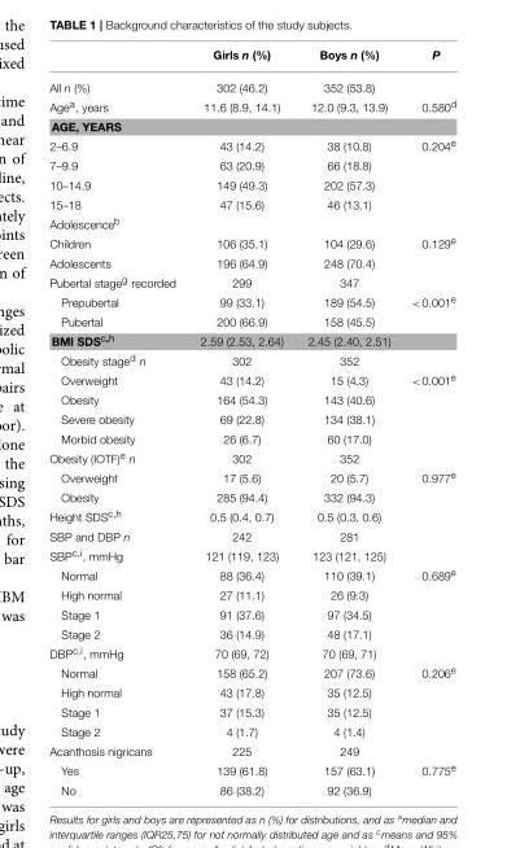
<table><thead><tr><td></td><td>Girls n (%)</td><td>Boys n (%)</td><td>P</td></tr></thead><tbody><tr><td>All n (%)</td><td>302 (46.2)</td><td>352 (53.8)</td><td></td></tr><tr><td>Age<sup>a</sup>, years</td><td>11.6 (8.9, 14.1)</td><td>12.0 (9.3, 13.9)</td><td>0.580<sup>d</sup></td></tr><tr><td colspan="4">AGE, YEARS</td></tr><tr><td>2–6.9</td><td>43 (14.2)</td><td>38 (10.8)</td><td>0.204<sup>e</sup></td></tr><tr><td>7–9.9</td><td>63 (20.9)</td><td>66 (18.8)</td><td></td></tr><tr><td>10–14.9</td><td>149 (49.3)</td><td>202 (57.3)</td><td></td></tr><tr><td>15–18</td><td>47 (15.6)</td><td>46 (13.1)</td><td></td></tr><tr><td colspan="4">Adolescence<sup>b</sup></td></tr><tr><td>Children</td><td>106 (35.1)</td><td>104 (29.6)</td><td>0.129<sup>e</sup></td></tr><tr><td>Adolescents</td><td>196 (64.9)</td><td>248 (70.4)</td><td></td></tr><tr><td>Pubertal stage<sup>g</sup> recorded</td><td>299</td><td>347</td><td></td></tr><tr><td>Prepubertal</td><td>99 (33.1)</td><td>189 (54.5)</td><td>&lt;0.001<sup>e</sup></td></tr><tr><td>Pubertal</td><td>200 (66.9)</td><td>158 (45.5)</td><td></td></tr><tr><td>BMI SDS<sup>c,h</sup></td><td>2.59 (2.53, 2.64)</td><td>2.45 (2.40, 2.51)</td><td></td></tr><tr><td>Obesity stage<sup>d</sup> n</td><td>302</td><td>352</td><td></td></tr><tr><td>Overweight</td><td>43 (14.2)</td><td>15 (4.3)</td><td>&lt;0.001<sup>e</sup></td></tr><tr><td>Obesity</td><td>164 (54.3)</td><td>143 (40.6)</td><td></td></tr><tr><td>Severe obesity</td><td>69 (22.8)</td><td>134 (38.1)</td><td></td></tr><tr><td>Morbid obesity</td><td>26 (6.7)</td><td>60 (17.0)</td><td></td></tr><tr><td>Obesity (IOTF)<sup>e</sup> n</td><td>302</td><td>352</td><td></td></tr><tr><td>Overweight</td><td>17 (5.6)</td><td>20 (5.7)</td><td>0.977<sup>e</sup></td></tr><tr><td>Obesity</td><td>285 (94.4)</td><td>332 (94.3)</td><td></td></tr><tr><td>Height SDS<sup>c,h</sup></td><td>0.5 (0.4, 0.7)</td><td>0.5 (0.3, 0.6)</td><td></td></tr><tr><td>SBP and DBP n</td><td>242</td><td>281</td><td></td></tr><tr><td>SBP<sup>c,i</sup>, mmHg</td><td>121 (119, 123)</td><td>123 (121, 125)</td><td></td></tr><tr><td>Normal</td><td>88 (36.4)</td><td>110 (39.1)</td><td>0.689<sup>e</sup></td></tr><tr><td>High normal</td><td>27 (11.1)</td><td>26 (9.3)</td><td></td></tr><tr><td>Stage 1</td><td>91 (37.6)</td><td>97 (34.5)</td><td></td></tr><tr><td>Stage 2</td><td>36 (14.9)</td><td>48 (17.1)</td><td></td></tr><tr><td>DBP<sup>c,i</sup>, mmHg</td><td>70 (69, 72)</td><td>70 (69, 71)</td><td></td></tr><tr><td>Normal</td><td>158 (65.2)</td><td>207 (73.6)</td><td>0.206<sup>e</sup></td></tr><tr><td>High normal</td><td>43 (17.8)</td><td>35 (12.5)</td><td></td></tr><tr><td>Stage 1</td><td>37 (15.3)</td><td>35 (12.5)</td><td></td></tr><tr><td>Stage 2</td><td>4 (1.7)</td><td>4 (1.4)</td><td></td></tr><tr><td>Acanthosis nigricans</td><td>225</td><td>249</td><td></td></tr><tr><td>Yes</td><td>139 (61.8)</td><td>157 (63.1)</td><td>0.775<sup>e</sup></td></tr><tr><td>No</td><td>86 (38.2)</td><td>92 (36.9)</td><td></td></tr></tbody></table>